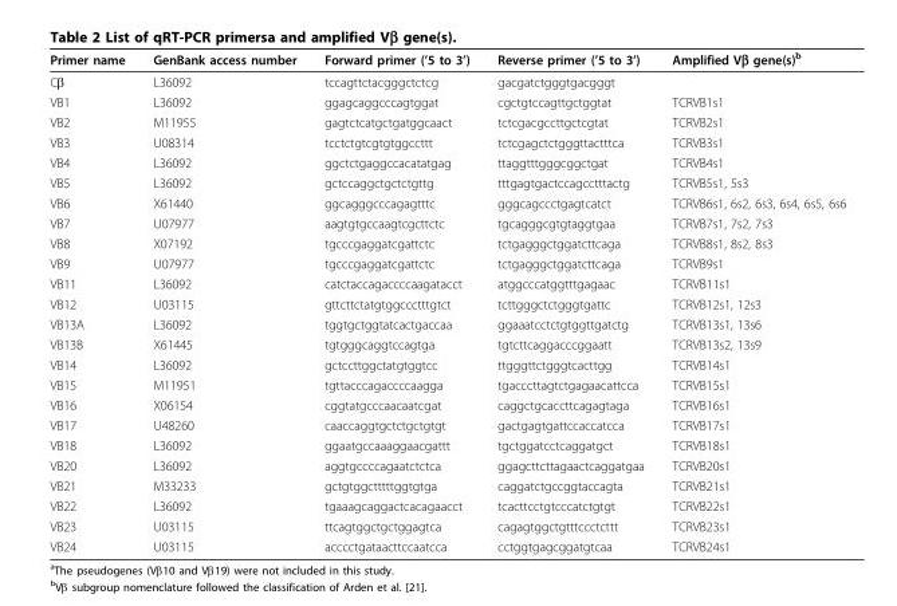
<table><thead><tr><td>Primer name</td><td>GenBank access number</td><td>Forward primer (’5 to 3’)</td><td>Reverse primer (’5 to 3’)</td><td>Amplified Vβ gene(s)<sup>b</sup></td></tr></thead><tbody><tr><td>Cβ</td><td>L36092</td><td>tccagttctacgggctctcg</td><td>gacgatctgggtgacgggt</td><td></td></tr><tr><td>VB1</td><td>L36092</td><td>ggagcaggcccagtggat</td><td>cgctgtccagttgctggtat</td><td>TCRVB1s1</td></tr><tr><td>VB2</td><td>M11955</td><td>gagtctcatgctgatggcaact</td><td>tctcgacgccttgctcgtat</td><td>TCRVB2s1</td></tr><tr><td>VB3</td><td>U08314</td><td>tcctctgtcgtgtggccttt</td><td>tctcgagctctgggttactttca</td><td>TCRVB3s1</td></tr><tr><td>VB4</td><td>L36092</td><td>ggctctgaggccacatatgag</td><td>ttaggtttgggcggctgat</td><td>TCRVB4s1</td></tr><tr><td>VB5</td><td>L36092</td><td>gctccaggctgctctgttg</td><td>tttgagtgactccagcctttactg</td><td>TCRVB5s1, 5s3</td></tr><tr><td>VB6</td><td>X61440</td><td>ggcagggcccagagtttc</td><td>gggcagccctgagtcatct</td><td>TCRVB6s1, 6s2, 6s3, 6s4, 6s5, 6s6</td></tr><tr><td>VB7</td><td>U07977</td><td>aagtgtgccaagtcgcttctc</td><td>tgcagggcgtgtaggtgaa</td><td>TCRVB7s1, 7s2, 7s3</td></tr><tr><td>VB8</td><td>X07192</td><td>tgcccgaggatcgattctc</td><td>tctgagggctggatcttcaga</td><td>TCRVB8s1, 8s2, 8s3</td></tr><tr><td>VB9</td><td>U07977</td><td>tgcccgaggatcgattctc</td><td>tctgagggctggatcttcaga</td><td>TCRVB9s1</td></tr><tr><td>VB11</td><td>L36092</td><td>catctaccagaccccaagatacct</td><td>atggcccatggtttgagaac</td><td>TCRVB11s1</td></tr><tr><td>VB12</td><td>U03115</td><td>gttcttctatgtggccctttgtct</td><td>tcttgggctctgggtgattc</td><td>TCRVB12s1, 12s3</td></tr><tr><td>VB13A</td><td>L36092</td><td>tggtgctggtatcactgaccaa</td><td>ggaaatcctctgtggttgatctg</td><td>TCRVB13s1, 13s6</td></tr><tr><td>VB13B</td><td>X61445</td><td>tgtgggcaggtccagtga</td><td>tgtcttcaggacccggaatt</td><td>TCRVB13s2, 13s9</td></tr><tr><td>VB14</td><td>L36092</td><td>gctccttggctatgtggtcc</td><td>ttgggttctgggtcacttgg</td><td>TCRVB14s1</td></tr><tr><td>VB15</td><td>M11951</td><td>tgttacccagaccccaagga</td><td>tgacccttagtctgagaacattcca</td><td>TCRVB15s1</td></tr><tr><td>VB16</td><td>X06154</td><td>cggtatgcccaacaatcgat</td><td>caggctgcaccttcagagtaga</td><td>TCRVB16s1</td></tr><tr><td>VB17</td><td>U48260</td><td>caaccaggtgctctgctgtgt</td><td>gactgagtgattccaccatcca</td><td>TCRVB17s1</td></tr><tr><td>VB18</td><td>L36092</td><td>ggaatgccaaaggaacgattt</td><td>tgctggatcctcaggatgct</td><td>TCRVB18s1</td></tr><tr><td>VB20</td><td>L36092</td><td>aggtgccccagaatctctca</td><td>ggagcttcttagaactcaggatgaa</td><td>TCRVB20s1</td></tr><tr><td>VB21</td><td>M33233</td><td>gctgtggctttttggtgtga</td><td>caggatctgccggtaccagta</td><td>TCRVB21s1</td></tr><tr><td>VB22</td><td>L36092</td><td>tgaaagcaggactcacagaacct</td><td>tcacttcctgtcccatctgtgt</td><td>TCRVB22s1</td></tr><tr><td>VB23</td><td>U03115</td><td>ttcagtggctgctggagtca</td><td>cagagtggctgtttccctcttt</td><td>TCRVB23s1</td></tr><tr><td>VB24</td><td>U03115</td><td>acccctgataacttccaatcca</td><td>cctggtgagcggatgtcaa</td><td>TCRVB24s1</td></tr></tbody></table>